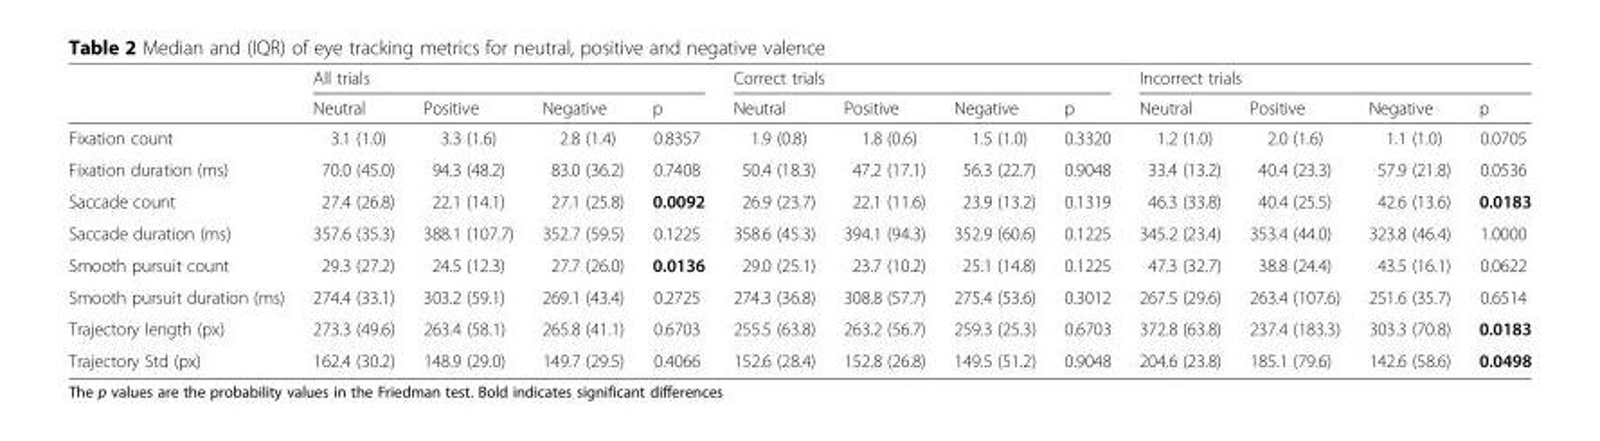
<table><thead><tr><td rowspan="2"></td><td colspan="4">All trials</td><td colspan="4">Correct trials</td><td colspan="4">Incorrect trials</td></tr><tr><td>Neutral</td><td>Positive</td><td>Negative</td><td>p</td><td>Neutral</td><td>Positive</td><td>Negative</td><td>p</td><td>Neutral</td><td>Positive</td><td>Negative</td><td>p</td></tr></thead><tbody><tr><td>Fixation count</td><td>3.1 (1.0)</td><td>3.3 (1.6)</td><td>2.8 (1.4)</td><td>0.8357</td><td>1.9 (0.8)</td><td>1.8 (0.6)</td><td>1.5 (1.0)</td><td>0.3320</td><td>1.2 (1.0)</td><td>2.0 (1.6)</td><td>1.1 (1.0)</td><td>0.0705</td></tr><tr><td>Fixation duration (ms)</td><td>70.0 (45.0)</td><td>94.3 (48.2)</td><td>83.0 (36.2)</td><td>0.7408</td><td>50.4 (18.3)</td><td>47.2 (17.1)</td><td>56.3 (22.7)</td><td>0.9048</td><td>33.4 (13.2)</td><td>40.4 (23.3)</td><td>57.9 (21.8)</td><td>0.0536</td></tr><tr><td>Saccade count</td><td>27.4 (26.8)</td><td>22.1 (14.1)</td><td>27.1 (25.8)</td><td>0.0092</td><td>26.9 (23.7)</td><td>22.1 (11.6)</td><td>23.9 (13.2)</td><td>0.1319</td><td>46.3 (33.8)</td><td>40.4 (25.5)</td><td>42.6 (13.6)</td><td>0.0183</td></tr><tr><td>Saccade duration (ms)</td><td>357.6 (35.3)</td><td>388.1 (107.7)</td><td>352.7 (59.5)</td><td>0.1225</td><td>358.6 (45.3)</td><td>394.1 (94.3)</td><td>352.9 (60.6)</td><td>0.1225</td><td>345.2 (23.4)</td><td>353.4 (44.0)</td><td>323.8 (46.4)</td><td>1.0000</td></tr><tr><td>Smooth pursuit count</td><td>29.3 (27.2)</td><td>24.5 (12.3)</td><td>27.7 (26.0)</td><td>0.0136</td><td>29.0 (25.1)</td><td>23.7 (10.2)</td><td>25.1 (14.8)</td><td>0.1225</td><td>47.3 (32.7)</td><td>38.8 (24.4)</td><td>43.5 (16.1)</td><td>0.0622</td></tr><tr><td>Smooth pursuit duration (ms)</td><td>274.4 (33.1)</td><td>303.2 (59.1)</td><td>269.1 (43.4)</td><td>0.2725</td><td>274.3 (36.8)</td><td>308.8 (57.7)</td><td>275.4 (53.6)</td><td>0.3012</td><td>267.5 (29.6)</td><td>263.4 (107.6)</td><td>251.6 (35.7)</td><td>0.6514</td></tr><tr><td>Trajectory length (px)</td><td>273.3 (49.6)</td><td>263.4 (58.1)</td><td>265.8 (41.1)</td><td>0.6703</td><td>255.5 (63.8)</td><td>263.2 (56.7)</td><td>259.3 (25.3)</td><td>0.6703</td><td>372.8 (63.8)</td><td>237.4 (183.3)</td><td>303.3 (70.8)</td><td>0.0183</td></tr><tr><td>Trajectory Std (px)</td><td>162.4 (30.2)</td><td>148.9 (29.0)</td><td>149.7 (29.5)</td><td>0.4066</td><td>152.6 (28.4)</td><td>152.8 (26.8)</td><td>149.5 (51.2)</td><td>0.9048</td><td>204.6 (23.8)</td><td>185.1 (79.6)</td><td>142.6 (58.6)</td><td>0.0498</td></tr></tbody></table>